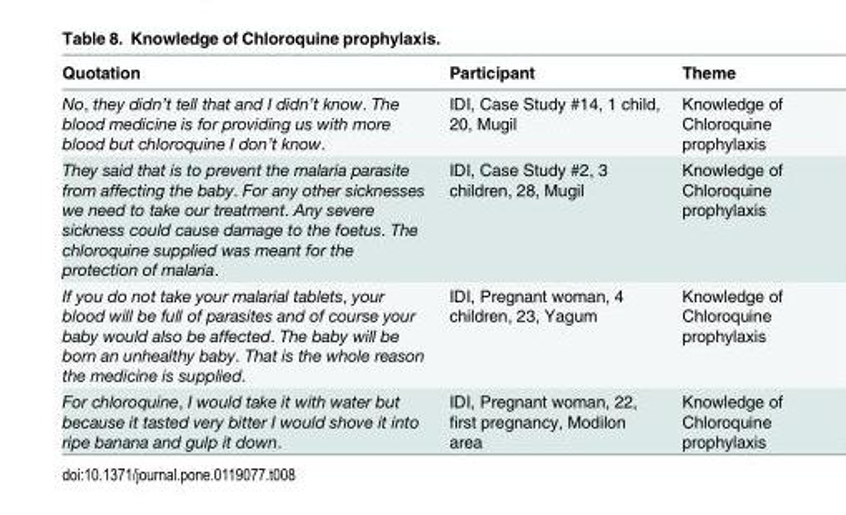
<table><thead><tr><td>Quotation</td><td>Participant</td><td>Theme</td></tr></thead><tbody><tr><td>No, they didn’t tell that and I didn’t know. The blood medicine is for providing us with more blood but chloroquine I don’t know.</td><td>IDI, Case Study #14, 1 child, 20, Mugil</td><td>Knowledge of Chloroquine prophylaxis</td></tr><tr><td>They said that is to prevent the malaria parasite from affecting the baby. For any other sicknesses we need to take our treatment. Any severe sickness could cause damage to the foetus. The chloroquine supplied was meant for the protection of malaria.</td><td>IDI, Case Study #2, 3 children, 28, Mugil</td><td>Knowledge of Chloroquine prophylaxis</td></tr><tr><td>If you do not take your malarial tablets, your blood will be full of parasites and of course your baby would also be affected. The baby will be born an unhealthy baby. That is the whole reason the medicine is supplied.</td><td>IDI, Pregnant woman, 4 children, 23, Yagum</td><td>Knowledge of Chloroquine prophylaxis</td></tr><tr><td>For chloroquine, I would take it with water but because it tasted very bitter I would shove it into ripe banana and gulp it down.</td><td>IDI, Pregnant woman, 22, first pregnancy, Modilon area</td><td>Knowledge of Chloroquine prophylaxis</td></tr></tbody></table>